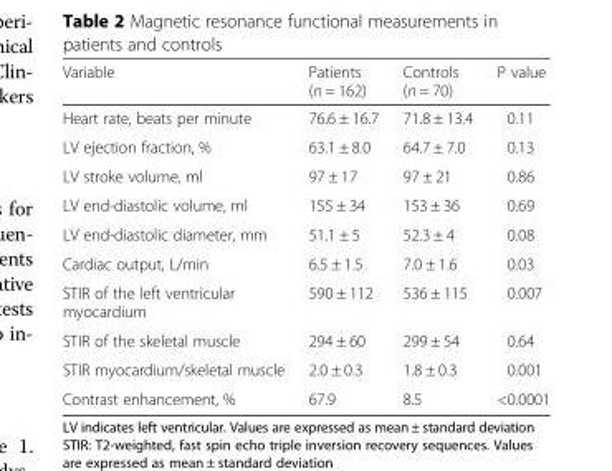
<table><thead><tr><td>Variable</td><td>Patients (n = 162)</td><td>Controls (n = 70)</td><td>P value</td></tr></thead><tbody><tr><td>Heart rate, beats per minute</td><td>76.6 ± 16.7</td><td>71.8 ± 13.4</td><td>0.11</td></tr><tr><td>LV ejection fraction, %</td><td>63.1 ± 8.0</td><td>64.7 ± 7.0</td><td>0.13</td></tr><tr><td>LV stroke volume, ml</td><td>97 ± 17</td><td>97 ± 21</td><td>0.86</td></tr><tr><td>LV end-diastolic volume, ml</td><td>155 ± 34</td><td>153 ± 36</td><td>0.69</td></tr><tr><td>LV end-diastolic diameter, mm</td><td>51.1 ± 5</td><td>52.3 ± 4</td><td>0.08</td></tr><tr><td>Cardiac output, L/min</td><td>6.5 ± 1.5</td><td>7.0 ± 1.6</td><td>0.03</td></tr><tr><td>STIR of the left ventricular myocardium</td><td>590 ± 112</td><td>536 ± 115</td><td>0.007</td></tr><tr><td>STIR of the skeletal muscle</td><td>294 ± 60</td><td>299 ± 54</td><td>0.64</td></tr><tr><td>STIR myocardium/skeletal muscle</td><td>2.0 ± 0.3</td><td>1.8 ± 0.3</td><td>0.001</td></tr><tr><td>Contrast enhancement, %</td><td>67.9</td><td>8.5</td><td>&lt;0.0001</td></tr></tbody></table>